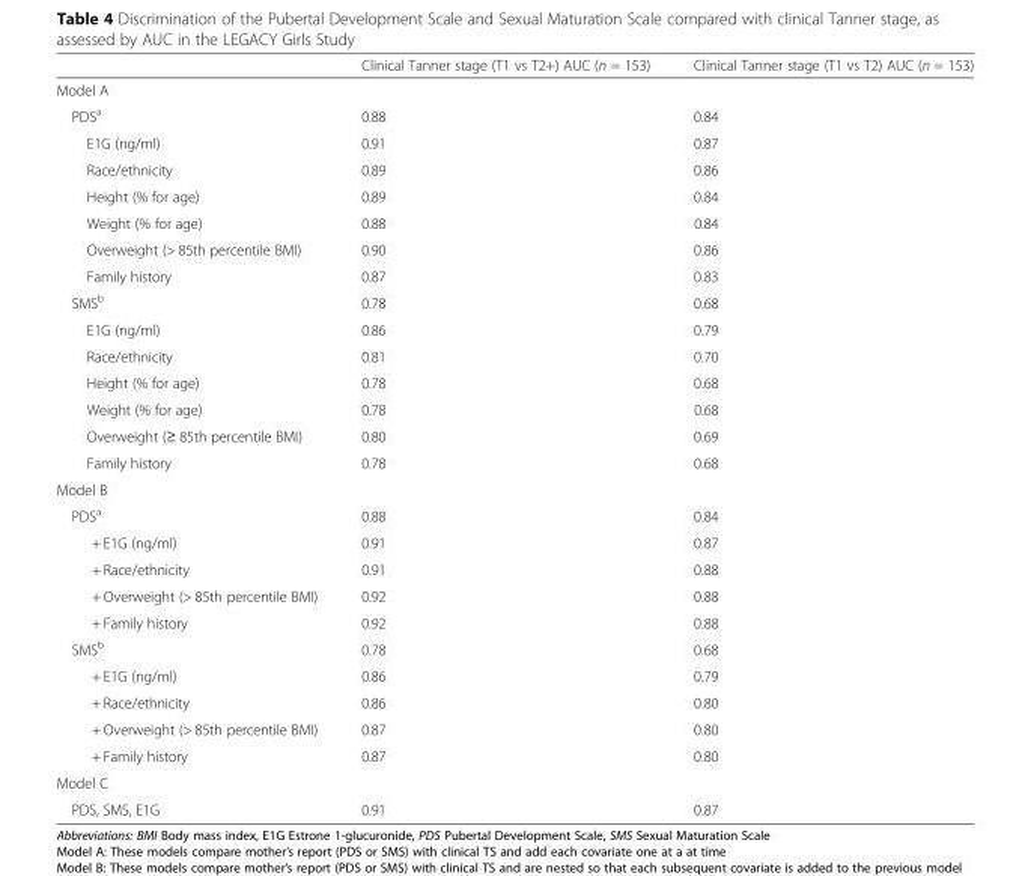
<table><thead><tr><td></td><td>Clinical Tanner stage (T1 vs T2+) AUC (n = 153)</td><td>Clinical Tanner stage (T1 vs T2) AUC (n = 153)</td></tr></thead><tbody><tr><td colspan="3">Model A</td></tr><tr><td>PDS<sup>a</sup></td><td>0.88</td><td>0.84</td></tr><tr><td>E1G (ng/ml)</td><td>0.91</td><td>0.87</td></tr><tr><td>Race/ethnicity</td><td>0.89</td><td>0.86</td></tr><tr><td>Height (% for age)</td><td>0.89</td><td>0.84</td></tr><tr><td>Weight (% for age)</td><td>0.88</td><td>0.84</td></tr><tr><td>Overweight (&gt; 85th percentile BMI)</td><td>0.90</td><td>0.86</td></tr><tr><td>Family history</td><td>0.87</td><td>0.83</td></tr><tr><td>SMS<sup>b</sup></td><td>0.78</td><td>0.68</td></tr><tr><td>E1G (ng/ml)</td><td>0.86</td><td>0.79</td></tr><tr><td>Race/ethnicity</td><td>0.81</td><td>0.70</td></tr><tr><td>Height (% for age)</td><td>0.78</td><td>0.68</td></tr><tr><td>Weight (% for age)</td><td>0.78</td><td>0.68</td></tr><tr><td>Overweight (≥ 85th percentile BMI)</td><td>0.80</td><td>0.69</td></tr><tr><td>Family history</td><td>0.78</td><td>0.68</td></tr><tr><td colspan="3">Model B</td></tr><tr><td>PDS<sup>a</sup></td><td>0.88</td><td>0.84</td></tr><tr><td>+ E1G (ng/ml)</td><td>0.91</td><td>0.87</td></tr><tr><td>+ Race/ethnicity</td><td>0.91</td><td>0.88</td></tr><tr><td>+ Overweight (&gt; 85th percentile BMI)</td><td>0.92</td><td>0.88</td></tr><tr><td>+ Family history</td><td>0.92</td><td>0.88</td></tr><tr><td>SMS<sup>b</sup></td><td>0.78</td><td>0.68</td></tr><tr><td>+ E1G (ng/ml)</td><td>0.86</td><td>0.79</td></tr><tr><td>+ Race/ethnicity</td><td>0.86</td><td>0.80</td></tr><tr><td>+ Overweight (&gt; 85th percentile BMI)</td><td>0.87</td><td>0.80</td></tr><tr><td>+ Family history</td><td>0.87</td><td>0.80</td></tr><tr><td colspan="3">Model C</td></tr><tr><td>PDS, SMS, E1G</td><td>0.91</td><td>0.87</td></tr></tbody></table>